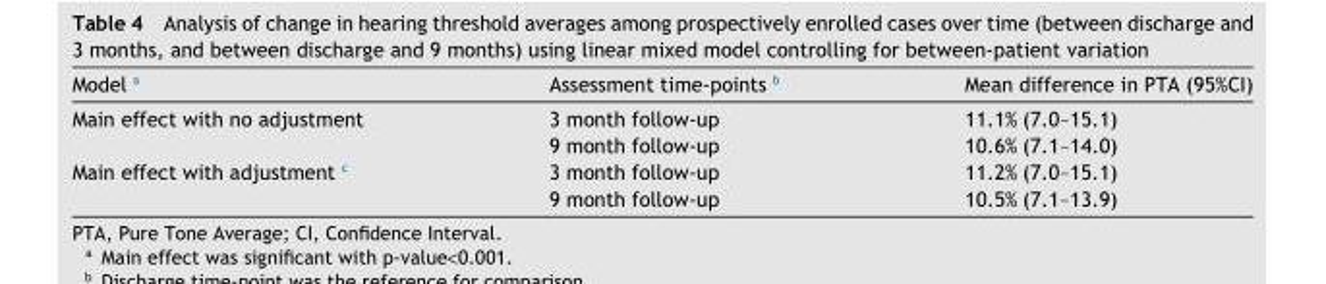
<table><thead><tr><td>Model a</td><td>Assessment time-points b</td><td>Mean difference in PTA (95%CI)</td></tr></thead><tbody><tr><td rowspan="2">Main effect with no adjustment</td><td>3 month follow-up</td><td>11.1% (7.0–15.1)</td></tr><tr><td>9 month follow-up</td><td>10.6% (7.1–14.0)</td></tr><tr><td rowspan="2">Main effect with adjustment c</td><td>3 month follow-up</td><td>11.2% (7.0–15.1)</td></tr><tr><td>9 month follow-up</td><td>10.5% (7.1–13.9)</td></tr></tbody></table>